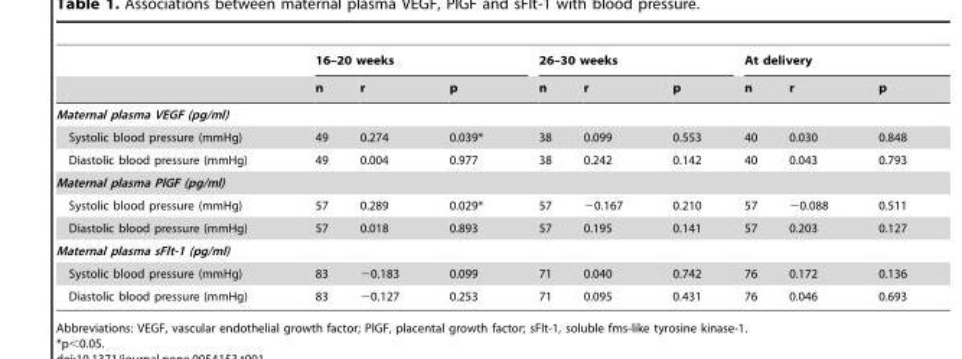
<table><thead><tr><td rowspan="2"></td><td colspan="3">16–20 weeks</td><td colspan="3">26–30 weeks</td><td colspan="3">At delivery</td></tr><tr><td>n</td><td>r</td><td>p</td><td>n</td><td>r</td><td>p</td><td>n</td><td>r</td><td>p</td></tr></thead><tbody><tr><td colspan="10">Maternal plasma VEGF (pg/ml)</td></tr><tr><td>Systolic blood pressure (mmHg)</td><td>49</td><td>0.274</td><td>0.039*</td><td>38</td><td>0.099</td><td>0.553</td><td>40</td><td>0.030</td><td>0.848</td></tr><tr><td>Diastolic blood pressure (mmHg)</td><td>49</td><td>0.004</td><td>0.977</td><td>38</td><td>0.242</td><td>0.142</td><td>40</td><td>0.043</td><td>0.793</td></tr><tr><td colspan="10">Maternal plasma PlGF (pg/ml)</td></tr><tr><td>Systolic blood pressure (mmHg)</td><td>57</td><td>0.289</td><td>0.029*</td><td>57</td><td>−0.167</td><td>0.210</td><td>57</td><td>−0.088</td><td>0.511</td></tr><tr><td>Diastolic blood pressure (mmHg)</td><td>57</td><td>0.018</td><td>0.893</td><td>57</td><td>0.195</td><td>0.141</td><td>57</td><td>0.203</td><td>0.127</td></tr><tr><td colspan="10">Maternal plasma sFlt-1 (pg/ml)</td></tr><tr><td>Systolic blood pressure (mmHg)</td><td>83</td><td>−0.183</td><td>0.099</td><td>71</td><td>0.040</td><td>0.742</td><td>76</td><td>0.172</td><td>0.136</td></tr><tr><td>Diastolic blood pressure (mmHg)</td><td>83</td><td>−0.127</td><td>0.253</td><td>71</td><td>0.095</td><td>0.431</td><td>76</td><td>0.046</td><td>0.693</td></tr></tbody></table>